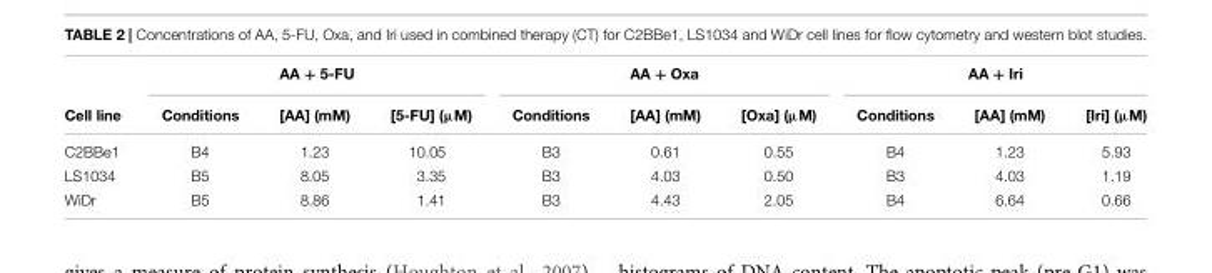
<table><thead><tr><td rowspan="2">Cell line</td><td colspan="3">AA + 5-FU</td><td colspan="3">AA + Oxa</td><td colspan="3">AA + Iri</td></tr><tr><td>Conditions</td><td>[AA] (mM)</td><td>[5-FU] (µM)</td><td>Conditions</td><td>[AA] (mM)</td><td>[Oxa] (µM)</td><td>Conditions</td><td>[AA] (mM)</td><td>[Iri] (µM)</td></tr></thead><tbody><tr><td>C2BBe1</td><td>B4</td><td>1.23</td><td>10.05</td><td>B3</td><td>0.61</td><td>0.55</td><td>B4</td><td>1.23</td><td>5.93</td></tr><tr><td>LS1034</td><td>B5</td><td>8.05</td><td>3.35</td><td>B3</td><td>4.03</td><td>0.50</td><td>B3</td><td>4.03</td><td>1.19</td></tr><tr><td>WiDr</td><td>B5</td><td>8.86</td><td>1.41</td><td>B3</td><td>4.43</td><td>2.05</td><td>B4</td><td>6.64</td><td>0.66</td></tr></tbody></table>